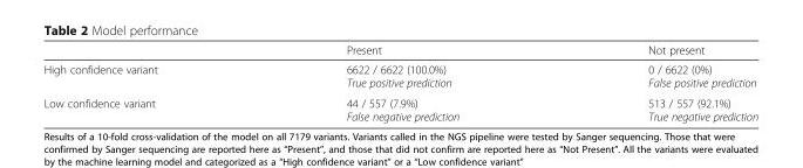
<table><thead><tr><td></td><td>Present</td><td>Not present</td></tr></thead><tbody><tr><td>High confidence variant</td><td>6622 / 6622 (100.0%) True positive prediction</td><td>0 / 6622 (0%) False positive prediction</td></tr><tr><td>Low confidence variant</td><td>44 / 557 (7.9%) False negative prediction</td><td>513 / 557 (92.1%) True negative prediction</td></tr></tbody></table>